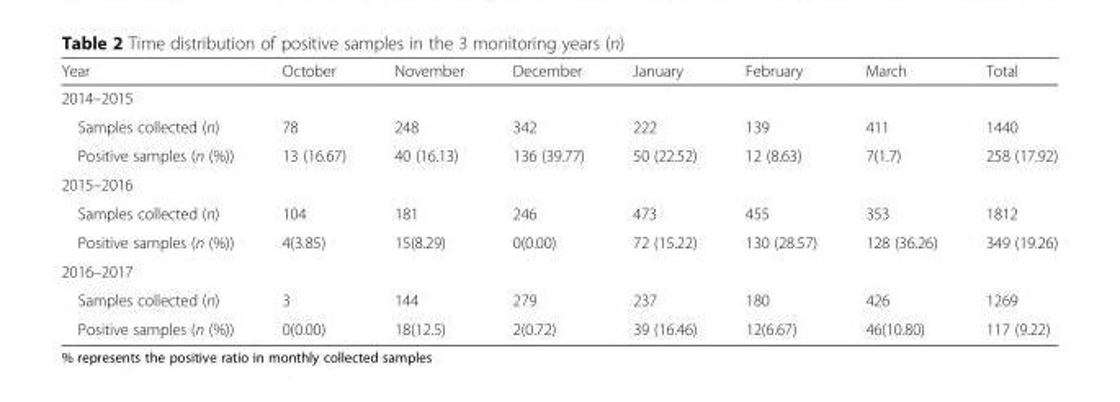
<table><thead><tr><td>Year</td><td>October</td><td>November</td><td>December</td><td>January</td><td>February</td><td>March</td><td>Total</td></tr></thead><tbody><tr><td colspan="8">2014–2015</td></tr><tr><td>Samples collected (n)</td><td>78</td><td>248</td><td>342</td><td>222</td><td>139</td><td>411</td><td>1440</td></tr><tr><td>Positive samples (n (%))</td><td>13 (16.67)</td><td>40 (16.13)</td><td>136 (39.77)</td><td>50 (22.52)</td><td>12 (8.63)</td><td>7(1.7)</td><td>258 (17.92)</td></tr><tr><td colspan="8">2015–2016</td></tr><tr><td>Samples collected (n)</td><td>104</td><td>181</td><td>246</td><td>473</td><td>455</td><td>353</td><td>1812</td></tr><tr><td>Positive samples (n (%))</td><td>4(3.85)</td><td>15(8.29)</td><td>0(0.00)</td><td>72 (15.22)</td><td>130 (28.57)</td><td>128 (36.26)</td><td>349 (19.26)</td></tr><tr><td colspan="8">2016–2017</td></tr><tr><td>Samples collected (n)</td><td>3</td><td>144</td><td>279</td><td>237</td><td>180</td><td>426</td><td>1269</td></tr><tr><td>Positive samples (n (%))</td><td>0(0.00)</td><td>18(12.5)</td><td>2(0.72)</td><td>39 (16.46)</td><td>12(6.67)</td><td>46(10.80)</td><td>117 (9.22)</td></tr></tbody></table>